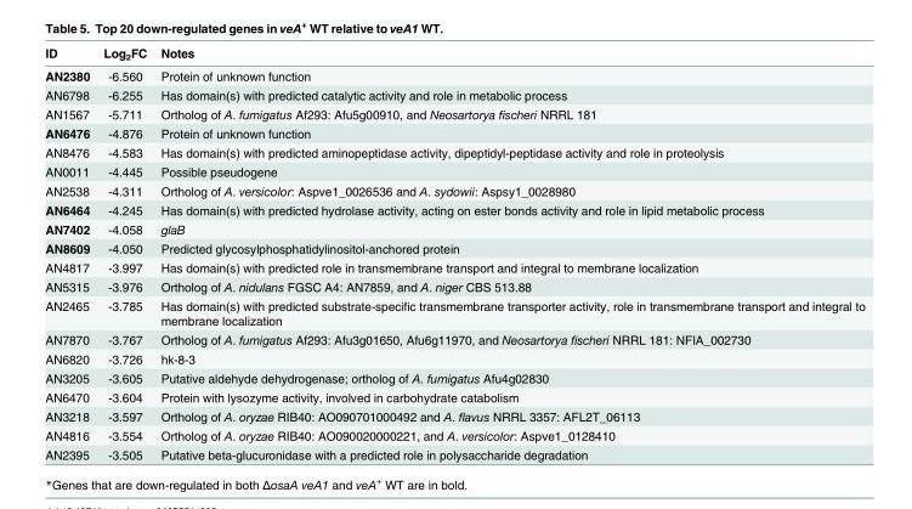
<table><thead><tr><td>ID</td><td>Log<sub>2</sub>FC</td><td>Notes</td></tr></thead><tbody><tr><td>AN2380</td><td>-6.560</td><td>Protein of unknown function</td></tr><tr><td>AN6798</td><td>-6.255</td><td>Has domain(s) with predicted catalytic activity and role in metabolic process</td></tr><tr><td>AN1567</td><td>-5.711</td><td>Ortholog of A. fumigatus Af293: Afu5g00910, and Neosartorya fischeri NRRL 181</td></tr><tr><td>AN6476</td><td>-4.876</td><td>Protein of unknown function</td></tr><tr><td>AN8476</td><td>-4.583</td><td>Has domain(s) with predicted aminopeptidase activity, dipeptidyl-peptidase activity and role in proteolysis</td></tr><tr><td>AN0011</td><td>-4.445</td><td>Possible pseudogene</td></tr><tr><td>AN2538</td><td>-4.311</td><td>Ortholog of A. versicolor: Aspve1_0026536 and A. sydowii: Aspsy1_0028980</td></tr><tr><td>AN6464</td><td>-4.245</td><td>Has domain(s) with predicted hydrolase activity, acting on ester bonds activity and role in lipid metabolic process</td></tr><tr><td>AN7402</td><td>-4.058</td><td>glaB</td></tr><tr><td>AN8609</td><td>-4.050</td><td>Predicted glycosylphosphatidylinositol-anchored protein</td></tr><tr><td>AN4817</td><td>-3.997</td><td>Has domain(s) with predicted role in transmembrane transport and integral to membrane localization</td></tr><tr><td>AN5315</td><td>-3.976</td><td>Ortholog of A. nidulans FGSC A4: AN7859, and A. niger CBS 513.88</td></tr><tr><td>AN2465</td><td>-3.785</td><td>Has domain(s) with predicted substrate-specific transmembrane transporter activity, role in transmembrane transport and integral to membrane localization</td></tr><tr><td>AN7870</td><td>-3.767</td><td>Ortholog of A. fumigatus Af293: Afu3g01650, Afu6g11970, and Neosartorya fischeri NRRL 181: NFIA_002730</td></tr><tr><td>AN6820</td><td>-3.726</td><td>hk-8-3</td></tr><tr><td>AN3205</td><td>-3.605</td><td>Putative aldehyde dehydrogenase; ortholog of A. fumigatus Afu4g02830</td></tr><tr><td>AN6470</td><td>-3.604</td><td>Protein with lysozyme activity, involved in carbohydrate catabolism</td></tr><tr><td>AN3218</td><td>-3.597</td><td>Ortholog of A. oryzae RIB40: AO090701000492 and A. flavus NRRL 3357: AFL2T_06113</td></tr><tr><td>AN4816</td><td>-3.554</td><td>Ortholog of A. oryzae RIB40: AO090020000221, and A. versicolor: Aspve1_0128410</td></tr><tr><td>AN2395</td><td>-3.505</td><td>Putative beta-glucuronidase with a predicted role in polysaccharide degradation</td></tr></tbody></table>